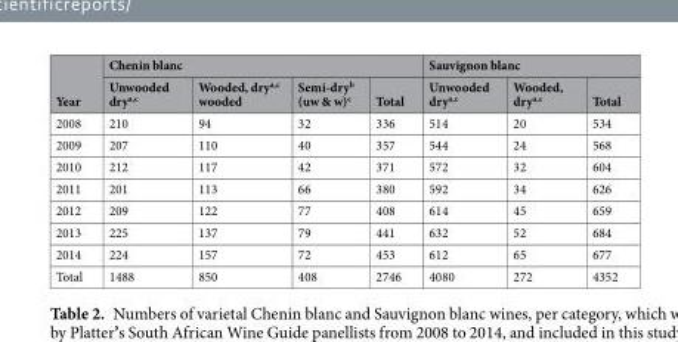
<table><thead><tr><td rowspan="2">Year</td><td colspan="4">Chenin blanc</td><td colspan="3">Sauvignon blanc</td></tr><tr><td>Unwooded dry<sup>a,c</sup></td><td>Wooded, dry<sup>a,c</sup> wooded</td><td>Semi-dry<sup>b</sup> (uw &amp; w)<sup>c</sup></td><td>Total</td><td>Unwooded dry<sup>a,c</sup></td><td>Wooded, dry<sup>a,c</sup></td><td>Total</td></tr></thead><tbody><tr><td>2008</td><td>210</td><td>94</td><td>32</td><td>336</td><td>514</td><td>20</td><td>534</td></tr><tr><td>2009</td><td>207</td><td>110</td><td>40</td><td>357</td><td>544</td><td>24</td><td>568</td></tr><tr><td>2010</td><td>212</td><td>117</td><td>42</td><td>371</td><td>572</td><td>32</td><td>604</td></tr><tr><td>2011</td><td>201</td><td>113</td><td>66</td><td>380</td><td>592</td><td>34</td><td>626</td></tr><tr><td>2012</td><td>209</td><td>122</td><td>77</td><td>408</td><td>614</td><td>45</td><td>659</td></tr><tr><td>2013</td><td>225</td><td>137</td><td>79</td><td>441</td><td>632</td><td>52</td><td>684</td></tr><tr><td>2014</td><td>224</td><td>157</td><td>72</td><td>453</td><td>612</td><td>65</td><td>677</td></tr><tr><td>Total</td><td>1488</td><td>850</td><td>408</td><td>2746</td><td>4080</td><td>272</td><td>4352</td></tr></tbody></table>